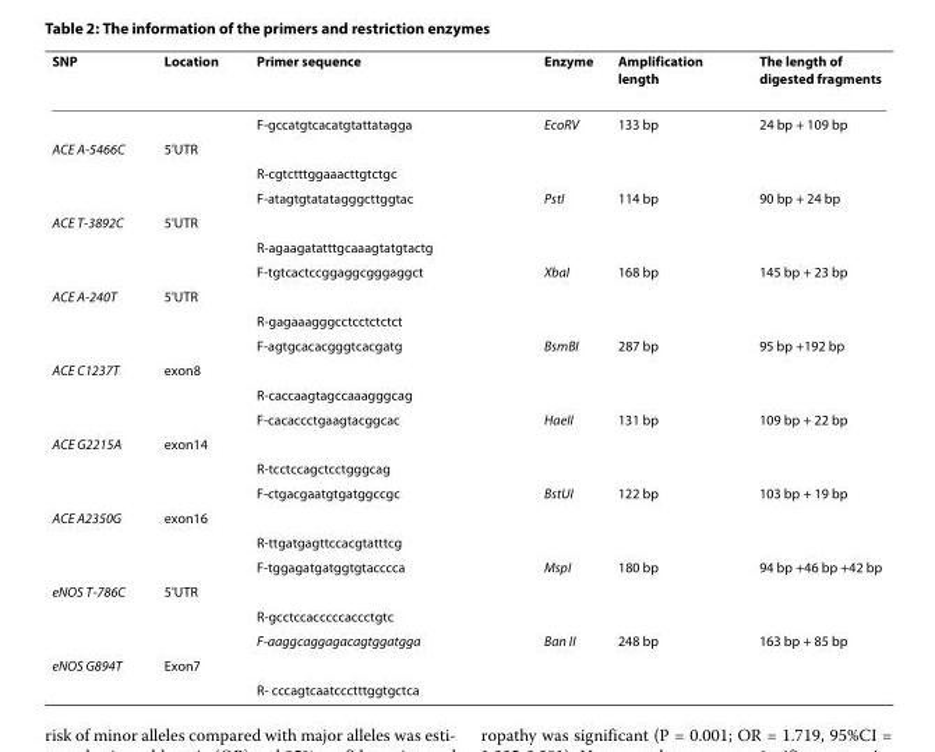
<table><thead><tr><td>SNP</td><td>Location</td><td>Primer sequence</td><td>Enzyme</td><td>Amplification length</td><td>The length of digested fragments</td></tr></thead><tbody><tr><td></td><td></td><td>F-gccatgtcacatgtattatagga</td><td>EcoRV</td><td>133 bp</td><td>24 bp + 109 bp</td></tr><tr><td rowspan="3">ACE A-5466C</td><td>5&#x27;UTR</td><td></td><td></td><td></td><td></td></tr><tr><td></td><td>R-cgtctttggaaacttgtctgc</td><td></td><td></td><td></td></tr><tr><td></td><td>F-atagtgtatatagggcttggtac</td><td>PstI</td><td>114 bp</td><td>90 bp + 24 bp</td></tr><tr><td rowspan="3">ACE T-3892C</td><td>5&#x27;UTR</td><td></td><td></td><td></td><td></td></tr><tr><td></td><td>R-agaagatatttgcaaagtatgtactg</td><td></td><td></td><td></td></tr><tr><td></td><td>F-tgtcactccggaggcgggaggct</td><td>XbaI</td><td>168 bp</td><td>145 bp + 23 bp</td></tr><tr><td rowspan="3">ACE A-240T</td><td>5&#x27;UTR</td><td></td><td></td><td></td><td></td></tr><tr><td></td><td>R-gagaaagggcctcctctctct</td><td></td><td></td><td></td></tr><tr><td></td><td>F-agtgcacacgggtcacgatg</td><td>BsmBI</td><td>287 bp</td><td>95 bp +192 bp</td></tr><tr><td rowspan="3">ACE C1237T</td><td>exon8</td><td></td><td></td><td></td><td></td></tr><tr><td></td><td>R-caccaagtagccaaagggcag</td><td></td><td></td><td></td></tr><tr><td></td><td>F-cacaccctgaagtacggcac</td><td>HaeII</td><td>131 bp</td><td>109 bp + 22 bp</td></tr><tr><td rowspan="3">ACE G2215A</td><td>exon14</td><td></td><td></td><td></td><td></td></tr><tr><td></td><td>R-tcctccagctcctgggcag</td><td></td><td></td><td></td></tr><tr><td></td><td>F-ctgacgaatgtgatggccgc</td><td>BstUI</td><td>122 bp</td><td>103 bp + 19 bp</td></tr><tr><td rowspan="3">ACE A2350G</td><td>exon16</td><td></td><td></td><td></td><td></td></tr><tr><td></td><td>R-ttgatgagttccacgtatttcg</td><td></td><td></td><td></td></tr><tr><td></td><td>F-tggagatgatggtgtacccca</td><td>MspI</td><td>180 bp</td><td>94 bp +46 bp +42 bp</td></tr><tr><td rowspan="3">eNOS T-786C</td><td>5&#x27;UTR</td><td></td><td></td><td></td><td></td></tr><tr><td></td><td>R-gcctccacccccaccctgtc</td><td></td><td></td><td></td></tr><tr><td></td><td>F-aaggcaggagacagtggatgga</td><td>Ban II</td><td>248 bp</td><td>163 bp + 85 bp</td></tr><tr><td rowspan="2">eNOS G894T</td><td>Exon7</td><td></td><td></td><td></td><td></td></tr><tr><td></td><td>R- cccagtcaatccctttggtgctca</td><td></td><td></td><td></td></tr></tbody></table>